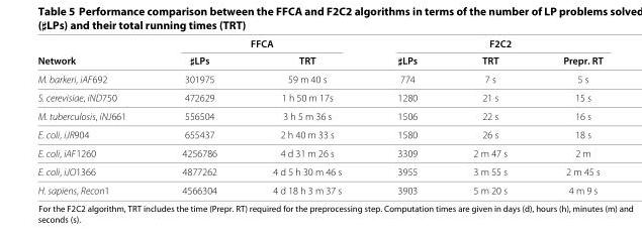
<table><thead><tr><td rowspan="2">Network</td><td colspan="2">FFCA</td><td colspan="3">F2C2</td></tr><tr><td>♯LPs</td><td>TRT</td><td>♯LPs</td><td>TRT</td><td>Prepr. RT</td></tr></thead><tbody><tr><td>M. barkeri, iAF692</td><td>301975</td><td>59 m 40 s</td><td>774</td><td>7 s</td><td>5 s</td></tr><tr><td>S. cerevisiae, iND750</td><td>472629</td><td>1 h 50 m 17s</td><td>1280</td><td>21 s</td><td>15 s</td></tr><tr><td>M. tuberculosis, iNJ661</td><td>556504</td><td>3 h 5 m 36 s</td><td>1506</td><td>22 s</td><td>16 s</td></tr><tr><td>E. coli, iJR904</td><td>655437</td><td>2 h 40 m 33 s</td><td>1580</td><td>26 s</td><td>18 s</td></tr><tr><td>E. coli, iAF1260</td><td>4256786</td><td>4 d 31 m 26 s</td><td>3309</td><td>2 m 47 s</td><td>2 m</td></tr><tr><td>E. coli, iJO1366</td><td>4877262</td><td>4 d 5 h 30 m 46 s</td><td>3955</td><td>3 m 55 s</td><td>2 m 45 s</td></tr><tr><td>H. sapiens, Recon1</td><td>4566304</td><td>4 d 18 h 3 m 37 s</td><td>3903</td><td>5 m 20 s</td><td>4 m 9 s</td></tr></tbody></table>